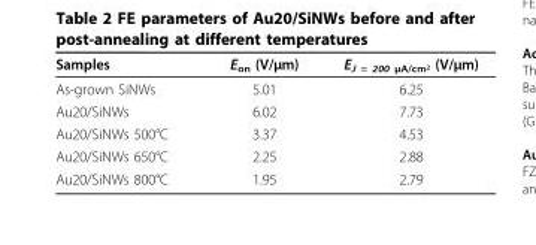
<table><thead><tr><td>Samples</td><td>E<sub>on</sub> (V/μm)</td><td>E<sub>J = 200 μA/cm</sub><sup><sub>2</sub></sup> (V/μm)</td></tr></thead><tbody><tr><td>As-grown SiNWs</td><td>5.01</td><td>6.25</td></tr><tr><td>Au20/SiNWs</td><td>6.02</td><td>7.73</td></tr><tr><td>Au20/SiNWs 500°C</td><td>3.37</td><td>4.53</td></tr><tr><td>Au20/SiNWs 650°C</td><td>2.25</td><td>2.88</td></tr><tr><td>Au20/SiNWs 800°C</td><td>1.95</td><td>2.79</td></tr></tbody></table>